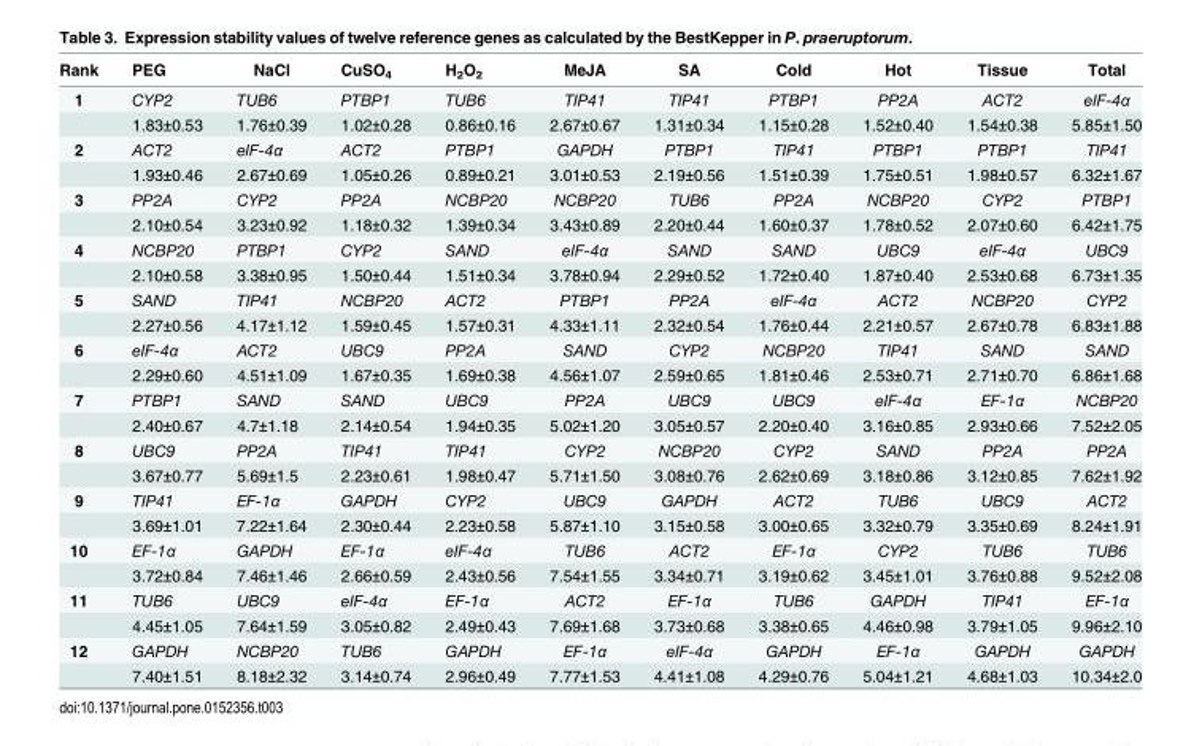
<table><thead><tr><td>Rank</td><td>PEG</td><td>NaCl</td><td>CuSO<sub>4</sub></td><td>H<sub>2</sub>O<sub>2</sub></td><td>MeJA</td><td>SA</td><td>Cold</td><td>Hot</td><td>Tissue</td><td>Total</td></tr></thead><tbody><tr><td rowspan="2">1</td><td>CYP2</td><td>TUB6</td><td>PTBP1</td><td>TUB6</td><td>TIP41</td><td>TIP41</td><td>PTBP1</td><td>PP2A</td><td>ACT2</td><td>eIF-4α</td></tr><tr><td>1.83±0.53</td><td>1.76±0.39</td><td>1.02±0.28</td><td>0.86±0.16</td><td>2.67±0.67</td><td>1.31±0.34</td><td>1.15±0.28</td><td>1.52±0.40</td><td>1.54±0.38</td><td>5.85±1.50</td></tr><tr><td rowspan="2">2</td><td>ACT2</td><td>eIF-4α</td><td>ACT2</td><td>PTBP1</td><td>GAPDH</td><td>PTBP1</td><td>TIP41</td><td>PTBP1</td><td>PTBP1</td><td>TIP41</td></tr><tr><td>1.93±0.46</td><td>2.67±0.69</td><td>1.05±0.26</td><td>0.89±0.21</td><td>3.01±0.53</td><td>2.19±0.56</td><td>1.51±0.39</td><td>1.75±0.51</td><td>1.98±0.57</td><td>6.32±1.67</td></tr><tr><td rowspan="2">3</td><td>PP2A</td><td>CYP2</td><td>PP2A</td><td>NCBP20</td><td>NCBP20</td><td>TUB6</td><td>PP2A</td><td>NCBP20</td><td>CYP2</td><td>PTBP1</td></tr><tr><td>2.10±0.54</td><td>3.23±0.92</td><td>1.18±0.32</td><td>1.39±0.34</td><td>3.43±0.89</td><td>2.20±0.44</td><td>1.60±0.37</td><td>1.78±0.52</td><td>2.07±0.60</td><td>6.42±1.75</td></tr><tr><td rowspan="2">4</td><td>NCBP20</td><td>PTBP1</td><td>CYP2</td><td>SAND</td><td>eIF-4α</td><td>SAND</td><td>SAND</td><td>UBC9</td><td>eIF-4α</td><td>UBC9</td></tr><tr><td>2.10±0.58</td><td>3.38±0.95</td><td>1.50±0.44</td><td>1.51±0.34</td><td>3.78±0.94</td><td>2.29±0.52</td><td>1.72±0.40</td><td>1.87±0.40</td><td>2.53±0.68</td><td>6.73±1.35</td></tr><tr><td rowspan="2">5</td><td>SAND</td><td>TIP41</td><td>NCBP20</td><td>ACT2</td><td>PTBP1</td><td>PP2A</td><td>eIF-4α</td><td>ACT2</td><td>NCBP20</td><td>CYP2</td></tr><tr><td>2.27±0.56</td><td>4.17±1.12</td><td>1.59±0.45</td><td>1.57±0.31</td><td>4.33±1.11</td><td>2.32±0.54</td><td>1.76±0.44</td><td>2.21±0.57</td><td>2.67±0.78</td><td>6.83±1.88</td></tr><tr><td rowspan="2">6</td><td>eIF-4α</td><td>ACT2</td><td>UBC9</td><td>PP2A</td><td>SAND</td><td>CYP2</td><td>NCBP20</td><td>TIP41</td><td>SAND</td><td>SAND</td></tr><tr><td>2.29±0.60</td><td>4.51±1.09</td><td>1.67±0.35</td><td>1.69±0.38</td><td>4.56±1.07</td><td>2.59±0.65</td><td>1.81±0.46</td><td>2.53±0.71</td><td>2.71±0.70</td><td>6.86±1.68</td></tr><tr><td rowspan="2">7</td><td>PTBP1</td><td>SAND</td><td>SAND</td><td>UBC9</td><td>PP2A</td><td>UBC9</td><td>UBC9</td><td>eIF-4α</td><td>EF-1α</td><td>NCBP20</td></tr><tr><td>2.40±0.67</td><td>4.7±1.18</td><td>2.14±0.54</td><td>1.94±0.35</td><td>5.02±1.20</td><td>3.05±0.57</td><td>2.20±0.40</td><td>3.16±0.85</td><td>2.93±0.66</td><td>7.52±2.05</td></tr><tr><td rowspan="2">8</td><td>UBC9</td><td>PP2A</td><td>TIP41</td><td>TIP41</td><td>CYP2</td><td>NCBP20</td><td>CYP2</td><td>SAND</td><td>PP2A</td><td>PP2A</td></tr><tr><td>3.67±0.77</td><td>5.69±1.5</td><td>2.23±0.61</td><td>1.98±0.47</td><td>5.71±1.50</td><td>3.08±0.76</td><td>2.62±0.69</td><td>3.18±0.86</td><td>3.12±0.85</td><td>7.62±1.92</td></tr><tr><td rowspan="2">9</td><td>TIP41</td><td>EF-1α</td><td>GAPDH</td><td>CYP2</td><td>UBC9</td><td>GAPDH</td><td>ACT2</td><td>TUB6</td><td>UBC9</td><td>ACT2</td></tr><tr><td>3.69±1.01</td><td>7.22±1.64</td><td>2.30±0.44</td><td>2.23±0.58</td><td>5.87±1.10</td><td>3.15±0.58</td><td>3.00±0.65</td><td>3.32±0.79</td><td>3.35±0.69</td><td>8.24±1.91</td></tr><tr><td rowspan="2">10</td><td>EF-1α</td><td>GAPDH</td><td>EF-1α</td><td>eIF-4α</td><td>TUB6</td><td>ACT2</td><td>EF-1α</td><td>CYP2</td><td>TUB6</td><td>TUB6</td></tr><tr><td>3.72±0.84</td><td>7.46±1.46</td><td>2.66±0.59</td><td>2.43±0.56</td><td>7.54±1.55</td><td>3.34±0.71</td><td>3.19±0.62</td><td>3.45±1.01</td><td>3.76±0.88</td><td>9.52±2.08</td></tr><tr><td rowspan="2">11</td><td>TUB6</td><td>UBC9</td><td>eIF-4α</td><td>EF-1α</td><td>ACT2</td><td>EF-1α</td><td>TUB6</td><td>GAPDH</td><td>TIP41</td><td>EF-1α</td></tr><tr><td>4.45±1.05</td><td>7.64±1.59</td><td>3.05±0.82</td><td>2.49±0.43</td><td>7.69±1.68</td><td>3.73±0.68</td><td>3.38±0.65</td><td>4.46±0.98</td><td>3.79±1.05</td><td>9.96±2.10</td></tr><tr><td rowspan="2">12</td><td>GAPDH</td><td>NCBP20</td><td>TUB6</td><td>GAPDH</td><td>EF-1α</td><td>eIF-4α</td><td>GAPDH</td><td>EF-1α</td><td>GAPDH</td><td>GAPDH</td></tr><tr><td>7.40±1.51</td><td>8.18±2.32</td><td>3.14±0.74</td><td>2.96±0.49</td><td>7.77±1.53</td><td>4.41±1.08</td><td>4.29±0.76</td><td>5.04±1.21</td><td>4.68±1.03</td><td>10.34±2.0</td></tr></tbody></table>